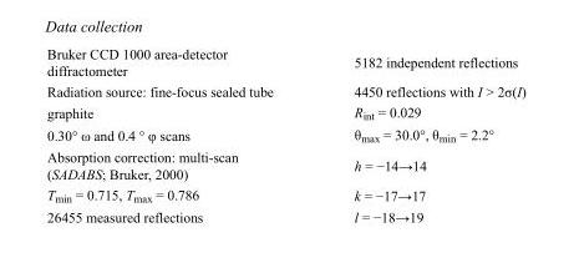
<table><tbody><tr><td>Bruker CCD 1000 area-detector diffractometer</td><td>5182 independent reflections</td></tr><tr><td>Radiation source: fine-focus sealed tube</td><td>4450 reflections with I &gt; 2σ(I)</td></tr><tr><td>graphite</td><td>R<sub>int</sub> = 0.029</td></tr><tr><td>0.30° ω and 0.4 ° φ scans</td><td>θ<sub>max</sub> = 30.0°, θ<sub>min</sub> = 2.2°</td></tr><tr><td>Absorption correction: multi-scan (SADABS; Bruker, 2000)</td><td>h = −14→14</td></tr><tr><td>T<sub>min</sub> = 0.715, T<sub>max</sub> = 0.786</td><td>k = −17→17</td></tr><tr><td>26455 measured reflections</td><td>l = −18→19</td></tr></tbody></table>